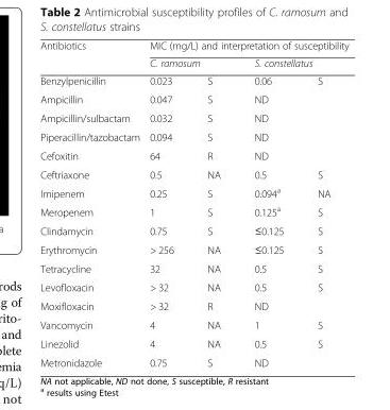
<table><thead><tr><td rowspan="3">Antibiotics Benzylpenicillin</td><td colspan="4">MIC (mg/L) and interpretation of susceptibility</td></tr><tr><td colspan="2">C. ramosum</td><td colspan="2">S. constellatus</td></tr><tr><td>0.023</td><td>S</td><td>0.06</td><td>S</td></tr></thead><tbody><tr><td>Ampicillin</td><td>0.047</td><td>S</td><td>ND</td><td></td></tr><tr><td>Ampicillin/sulbactam</td><td>0.032</td><td>S</td><td>ND</td><td></td></tr><tr><td>Piperacillin/tazobactam</td><td>0.094</td><td>S</td><td>ND</td><td></td></tr><tr><td>Cefoxitin</td><td>64</td><td>R</td><td>ND</td><td></td></tr><tr><td>Ceftriaxone</td><td>0.5</td><td>NA</td><td>0.5</td><td>S</td></tr><tr><td>Imipenem</td><td>0.25</td><td>S</td><td>0.094<sup>a</sup></td><td>NA</td></tr><tr><td>Meropenem</td><td>1</td><td>S</td><td>0.125<sup>a</sup></td><td>S</td></tr><tr><td>Clindamycin</td><td>0.75</td><td>S</td><td>≤0.125</td><td>S</td></tr><tr><td>Erythromycin</td><td>&gt; 256</td><td>NA</td><td>≤0.125</td><td>S</td></tr><tr><td>Tetracycline</td><td>32</td><td>NA</td><td>0.5</td><td>S</td></tr><tr><td>Levofloxacin</td><td>&gt; 32</td><td>NA</td><td>0.5</td><td>S</td></tr><tr><td>Moxifloxacin</td><td>&gt; 32</td><td>R</td><td>ND</td><td></td></tr><tr><td>Vancomycin</td><td>4</td><td>NA</td><td>1</td><td>S</td></tr><tr><td>Linezolid</td><td>4</td><td>NA</td><td>0.5</td><td>S</td></tr><tr><td>Metronidazole</td><td>0.75</td><td>S</td><td>ND</td><td></td></tr></tbody></table>